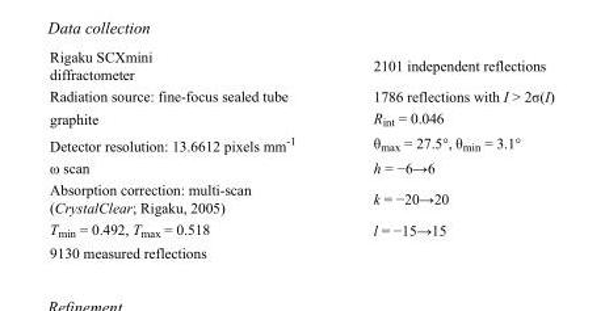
<table><tbody><tr><td>Rigaku SCXmini diffractometer</td><td>2101 independent reflections</td></tr><tr><td>Radiation source: fine-focus sealed tube</td><td>1786 reflections with I &gt; 2σ(I)</td></tr><tr><td>graphite</td><td>R<sub>int</sub> = 0.046</td></tr><tr><td>Detector resolution: 13.6612 pixels mm<sup>-1</sup></td><td>θ<sub>max</sub> = 27.5°, θ<sub>min</sub> = 3.1°</td></tr><tr><td>ω scan</td><td>h = −6→6</td></tr><tr><td>Absorption correction: multi-scan (CrystalClear; Rigaku, 2005)</td><td>k = −20→20</td></tr><tr><td>T<sub>min</sub> = 0.492, T<sub>max</sub> = 0.518</td><td>l = −15→15</td></tr><tr><td>9130 measured reflections</td><td></td></tr></tbody></table>